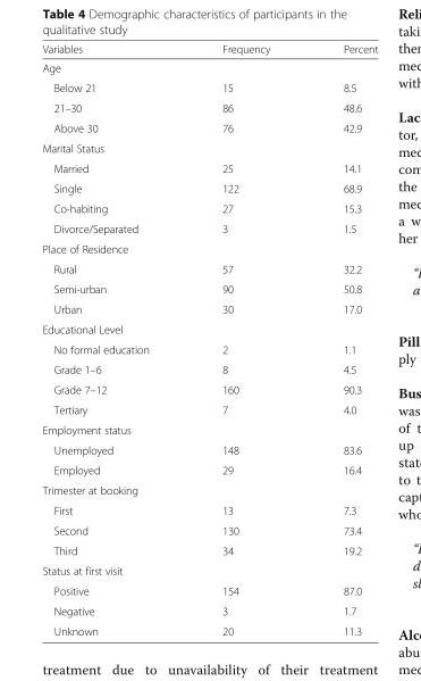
<table><thead><tr><td>Variables</td><td>Frequency</td><td>Percent</td></tr></thead><tbody><tr><td colspan="3">Age</td></tr><tr><td>Below 21</td><td>15</td><td>8.5</td></tr><tr><td>21–30</td><td>86</td><td>48.6</td></tr><tr><td>Above 30</td><td>76</td><td>42.9</td></tr><tr><td colspan="3">Marital Status</td></tr><tr><td>Married</td><td>25</td><td>14.1</td></tr><tr><td>Single</td><td>122</td><td>68.9</td></tr><tr><td>Co-habiting</td><td>27</td><td>15.3</td></tr><tr><td>Divorce/Separated</td><td>3</td><td>1.5</td></tr><tr><td colspan="3">Place of Residence</td></tr><tr><td>Rural</td><td>57</td><td>32.2</td></tr><tr><td>Semi-urban</td><td>90</td><td>50.8</td></tr><tr><td>Urban</td><td>30</td><td>17.0</td></tr><tr><td colspan="3">Educational Level</td></tr><tr><td>No formal education</td><td>2</td><td>1.1</td></tr><tr><td>Grade 1–6</td><td>8</td><td>4.5</td></tr><tr><td>Grade 7–12</td><td>160</td><td>90.3</td></tr><tr><td>Tertiary</td><td>7</td><td>4.0</td></tr><tr><td colspan="3">Employment status</td></tr><tr><td>Unemployed</td><td>148</td><td>83.6</td></tr><tr><td>Employed</td><td>29</td><td>16.4</td></tr><tr><td colspan="3">Trimester at booking</td></tr><tr><td>First</td><td>13</td><td>7.3</td></tr><tr><td>Second</td><td>130</td><td>73.4</td></tr><tr><td>Third</td><td>34</td><td>19.2</td></tr><tr><td colspan="3">Status at first visit</td></tr><tr><td>Positive</td><td>154</td><td>87.0</td></tr><tr><td>Negative</td><td>3</td><td>1.7</td></tr><tr><td>Unknown</td><td>20</td><td>11.3</td></tr></tbody></table>